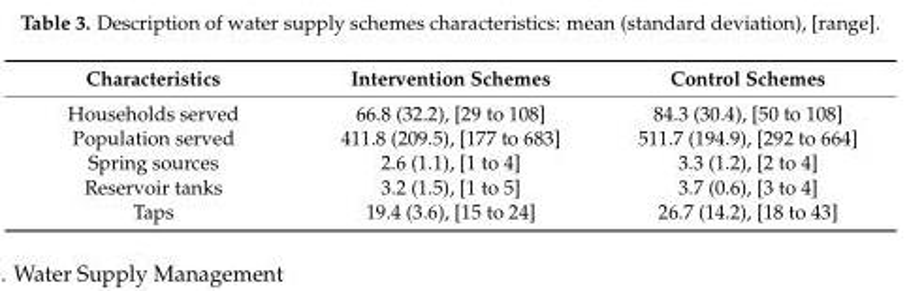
<table><thead><tr><td>Characteristics</td><td>Intervention Schemes</td><td>Control Schemes</td></tr></thead><tbody><tr><td>Households served</td><td>66.8 (32.2), [29 to 108]</td><td>84.3 (30.4), [50 to 108]</td></tr><tr><td>Population served</td><td>411.8 (209.5), [177 to 683]</td><td>511.7 (194.9), [292 to 664]</td></tr><tr><td>Spring sources</td><td>2.6 (1.1), [1 to 4]</td><td>3.3 (1.2), [2 to 4]</td></tr><tr><td>Reservoir tanks</td><td>3.2 (1.5), [1 to 5]</td><td>3.7 (0.6), [3 to 4]</td></tr><tr><td>Taps</td><td>19.4 (3.6), [15 to 24]</td><td>26.7 (14.2), [18 to 43]</td></tr></tbody></table>